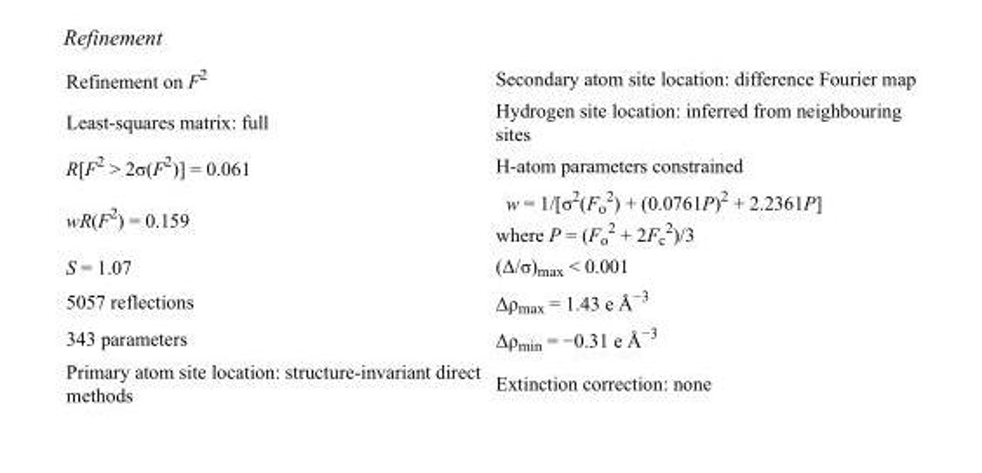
<table><tbody><tr><td>Refinement on F<sup>2</sup></td><td>Secondary atom site location: difference Fourier map</td></tr><tr><td>Least-squares matrix: full</td><td>Hydrogen site location: inferred from neighbouring sites</td></tr><tr><td>R[F<sup>2</sup> &gt; 2σ(F<sup>2</sup>)] = 0.061</td><td>H-atom parameters constrained</td></tr><tr><td>wR(F<sup>2</sup>) = 0.159</td><td>w = 1/[σ<sup>2</sup>(F<sub>o</sub> <sup>2</sup>) + (0.0761P)<sup>2</sup> + 2.2361P] where P = (F<sub>o</sub> <sup>2</sup> + 2F<sub>c</sub> <sup>2</sup>)/3</td></tr><tr><td>S = 1.07</td><td>(Δ/σ)<sub>max</sub> &lt; 0.001</td></tr><tr><td>5057 reflections</td><td>Δρ<sub>max</sub> = 1.43 e Å<sup>−3</sup></td></tr><tr><td>343 parameters</td><td>Δρ<sub>min</sub> = −0.31 e Å<sup>−3</sup></td></tr><tr><td>Primary atom site location: structure-invariant direct methods</td><td>Extinction correction: none</td></tr></tbody></table>